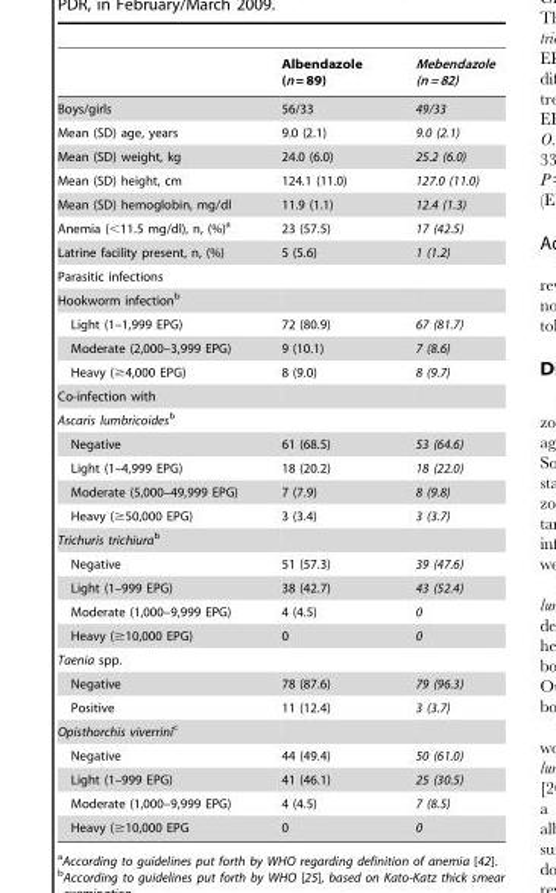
<table><thead><tr><td></td><td>Albendazole (n = 89)</td><td>Mebendazole (n = 82)</td></tr></thead><tbody><tr><td>Boys/girls</td><td>56/33</td><td>49/33</td></tr><tr><td>Mean (SD) age, years</td><td>9.0 (2.1)</td><td>9.0 (2.1)</td></tr><tr><td>Mean (SD) weight, kg</td><td>24.0 (6.0)</td><td>25.2 (6.0)</td></tr><tr><td>Mean (SD) height, cm</td><td>124.1 (11.0)</td><td>127.0 (11.0)</td></tr><tr><td>Mean (SD) hemoglobin, mg/dl</td><td>11.9 (1.1)</td><td>12.4 (1.3)</td></tr><tr><td>Anemia (&lt;11.5 mg/dl), n, (%)<sup>a</sup></td><td>23 (57.5)</td><td>17 (42.5)</td></tr><tr><td>Latrine facility present, n, (%)</td><td>5 (5.6)</td><td>1 (1.2)</td></tr><tr><td colspan="3">Parasitic infections</td></tr><tr><td colspan="3">Hookworm infection<sup>b</sup></td></tr><tr><td>Light (1–1,999 EPG)</td><td>72 (80.9)</td><td>67 (81.7)</td></tr><tr><td>Moderate (2,000–3,999 EPG)</td><td>9 (10.1)</td><td>7 (8.6)</td></tr><tr><td>Heavy (≥4,000 EPG)</td><td>8 (9.0)</td><td>8 (9.7)</td></tr><tr><td colspan="3">Co-infection with</td></tr><tr><td colspan="3">Ascaris lumbricoidesb</td></tr><tr><td>Negative</td><td>61 (68.5)</td><td>53 (64.6)</td></tr><tr><td>Light (1–4,999 EPG)</td><td>18 (20.2)</td><td>18 (22.0)</td></tr><tr><td>Moderate (5,000–49,999 EPG)</td><td>7 (7.9)</td><td>8 (9.8)</td></tr><tr><td>Heavy (≥50,000 EPG)</td><td>3 (3.4)</td><td>3 (3.7)</td></tr><tr><td colspan="3">Trichuris trichiurab</td></tr><tr><td>Negative</td><td>51 (57.3)</td><td>39 (47.6)</td></tr><tr><td>Light (1–999 EPG)</td><td>38 (42.7)</td><td>43 (52.4)</td></tr><tr><td>Moderate (1,000–9,999 EPG)</td><td>4 (4.5)</td><td>0</td></tr><tr><td>Heavy (≥10,000 EPG)</td><td>0</td><td>0</td></tr><tr><td colspan="3">Taenia spp.</td></tr><tr><td>Negative</td><td>78 (87.6)</td><td>79 (96.3)</td></tr><tr><td>Positive</td><td>11 (12.4)</td><td>3 (3.7)</td></tr><tr><td colspan="3">Opisthorchis viverrinic</td></tr><tr><td>Negative</td><td>44 (49.4)</td><td>50 (61.0)</td></tr><tr><td>Light (1–999 EPG)</td><td>41 (46.1)</td><td>25 (30.5)</td></tr><tr><td>Moderate (1,000–9,999 EPG)</td><td>4 (4.5)</td><td>7 (8.5)</td></tr><tr><td>Heavy (≥10,000 EPG</td><td>0</td><td>0</td></tr></tbody></table>